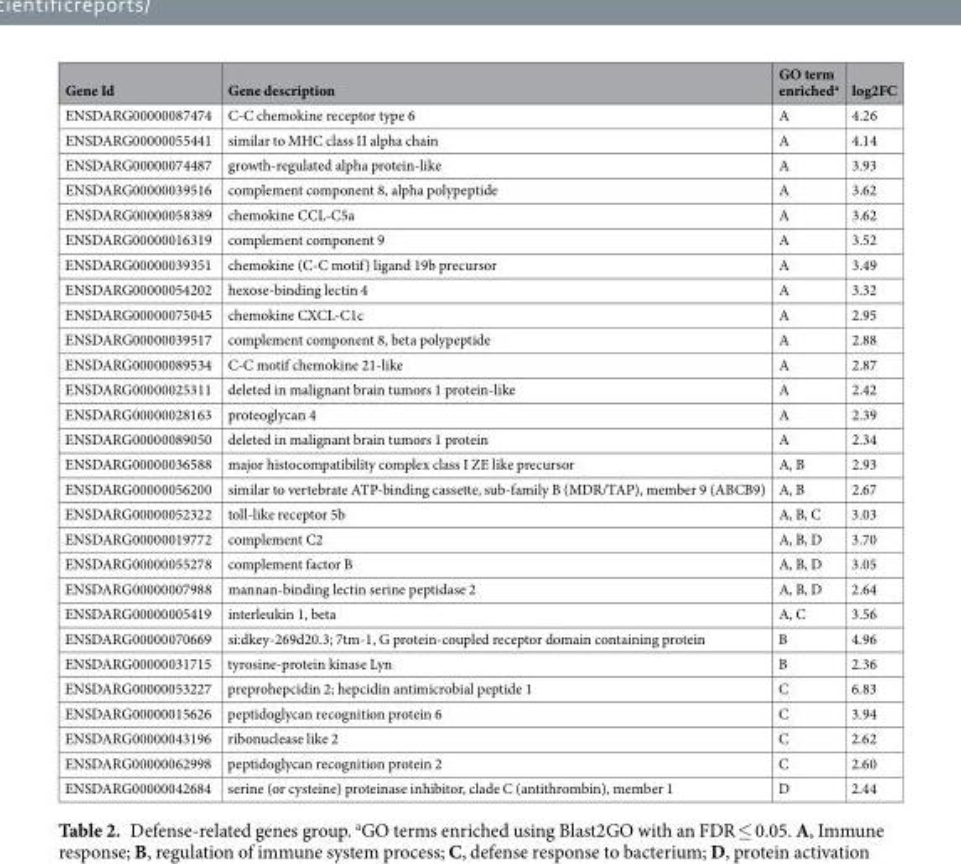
<table><thead><tr><td>Gene Id</td><td>Gene description</td><td>GO term enriched<sup>a</sup></td><td>log2FC</td></tr></thead><tbody><tr><td>ENSDARG00000087474</td><td>C-C chemokine receptor type 6</td><td>A</td><td>4.26</td></tr><tr><td>ENSDARG00000055441</td><td>similar to MHC class II alpha chain</td><td>A</td><td>4.14</td></tr><tr><td>ENSDARG00000074487</td><td>growth-regulated alpha protein-like</td><td>A</td><td>3.93</td></tr><tr><td>ENSDARG00000039516</td><td>complement component 8, alpha polypeptide</td><td>A</td><td>3.62</td></tr><tr><td>ENSDARG00000058389</td><td>chemokine CCL-C5a</td><td>A</td><td>3.62</td></tr><tr><td>ENSDARG00000016319</td><td>complement component 9</td><td>A</td><td>3.52</td></tr><tr><td>ENSDARG00000039351</td><td>chemokine (C-C motif) ligand 19b precursor</td><td>A</td><td>3.49</td></tr><tr><td>ENSDARG00000054202</td><td>hexose-binding lectin 4</td><td>A</td><td>3.32</td></tr><tr><td>ENSDARG00000075045</td><td>chemokine CXCL-C1c</td><td>A</td><td>2.95</td></tr><tr><td>ENSDARG00000039517</td><td>complement component 8, beta polypeptide</td><td>A</td><td>2.88</td></tr><tr><td>ENSDARG00000089534</td><td>C-C motif chemokine 21-like</td><td>A</td><td>2.87</td></tr><tr><td>ENSDARG00000025311</td><td>deleted in malignant brain tumors 1 protein-like</td><td>A</td><td>2.42</td></tr><tr><td>ENSDARG00000028163</td><td>proteoglycan 4</td><td>A</td><td>2.39</td></tr><tr><td>ENSDARG00000089050</td><td>deleted in malignant brain tumors 1 protein</td><td>A</td><td>2.34</td></tr><tr><td>ENSDARG00000036588</td><td>major histocompatibility complex class I ZE like precursor</td><td>A, B</td><td>2.93</td></tr><tr><td>ENSDARG00000056200</td><td>similar to vertebrate ATP-binding cassette, sub-family B (MDR/TAP), member 9 (ABCB9)</td><td>A, B</td><td>2.67</td></tr><tr><td>ENSDARG00000052322</td><td>toll-like receptor 5b</td><td>A, B, C</td><td>3.03</td></tr><tr><td>ENSDARG00000019772</td><td>complement C2</td><td>A, B, D</td><td>3.70</td></tr><tr><td>ENSDARG00000055278</td><td>complement factor B</td><td>A, B, D</td><td>3.05</td></tr><tr><td>ENSDARG00000007988</td><td>mannan-binding lectin serine peptidase 2</td><td>A, B, D</td><td>2.64</td></tr><tr><td>ENSDARG00000005419</td><td>interleukin 1, beta</td><td>A, C</td><td>3.56</td></tr><tr><td>ENSDARG00000070669</td><td>si:dkey-269d20.3; 7tm-1, G protein-coupled receptor domain containing protein</td><td>B</td><td>4.96</td></tr><tr><td>ENSDARG00000031715</td><td>tyrosine-protein kinase Lyn</td><td>B</td><td>2.36</td></tr><tr><td>ENSDARG00000053227</td><td>preprohepcidin 2; hepcidin antimicrobial peptide 1</td><td>C</td><td>6.83</td></tr><tr><td>ENSDARG00000015626</td><td>peptidoglycan recognition protein 6</td><td>C</td><td>3.94</td></tr><tr><td>ENSDARG00000043196</td><td>ribonuclease like 2</td><td>C</td><td>2.62</td></tr><tr><td>ENSDARG00000062998</td><td>peptidoglycan recognition protein 2</td><td>C</td><td>2.60</td></tr><tr><td>ENSDARG00000042684</td><td>serine (or cysteine) proteinase inhibitor, clade C (antithrombin), member 1</td><td>D</td><td>2.44</td></tr></tbody></table>